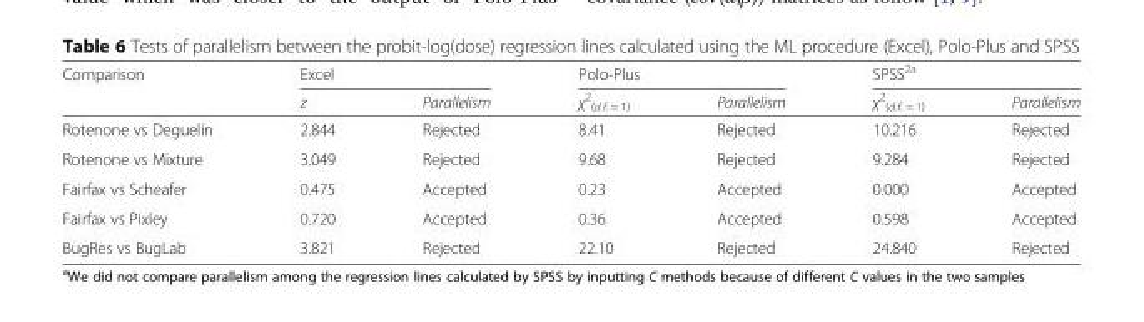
<table><thead><tr><td rowspan="2">Comparison</td><td colspan="2">Excel</td><td colspan="2">Polo-Plus</td><td colspan="2">SPSS<sup>2a</sup></td></tr><tr><td>z</td><td>Parallelism</td><td>χ<sup>2</sup> <sub>(d.f. = 1)</sub></td><td>Parallelism</td><td>χ<sup>2</sup> <sub>(d.f. = 1)</sub></td><td>Parallelism</td></tr></thead><tbody><tr><td>Rotenone vs Deguelin</td><td>2.844</td><td>Rejected</td><td>8.41</td><td>Rejected</td><td>10.216</td><td>Rejected</td></tr><tr><td>Rotenone vs Mixture</td><td>3.049</td><td>Rejected</td><td>9.68</td><td>Rejected</td><td>9.284</td><td>Rejected</td></tr><tr><td>Fairfax vs Scheafer</td><td>0.475</td><td>Accepted</td><td>0.23</td><td>Accepted</td><td>0.000</td><td>Accepted</td></tr><tr><td>Fairfax vs Pixley</td><td>0.720</td><td>Accepted</td><td>0.36</td><td>Accepted</td><td>0.598</td><td>Accepted</td></tr><tr><td>BugRes vs BugLab</td><td>3.821</td><td>Rejected</td><td>22.10</td><td>Rejected</td><td>24.840</td><td>Rejected</td></tr></tbody></table>